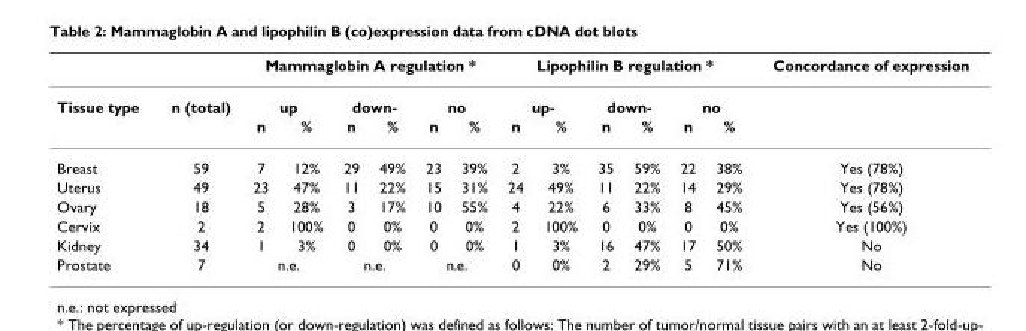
<table><thead><tr><td rowspan="3">Tissue type</td><td rowspan="3">n (total)</td><td colspan="6">Mammaglobin A regulation *</td><td colspan="6">Lipophilin B regulation *</td><td rowspan="3">Concordance of expression</td></tr><tr><td colspan="2">up</td><td colspan="2">down-</td><td colspan="2">no</td><td colspan="2">up-</td><td colspan="2">down-</td><td colspan="2">no</td></tr><tr><td>n</td><td>%</td><td>n</td><td>%</td><td>n</td><td>%</td><td>n</td><td>%</td><td>n</td><td>%</td><td>n</td><td>%</td></tr></thead><tbody><tr><td>Breast</td><td>59</td><td>7</td><td>12%</td><td>29</td><td>49%</td><td>23</td><td>39%</td><td>2</td><td>3%</td><td>35</td><td>59%</td><td>22</td><td>38%</td><td>Yes (78%)</td></tr><tr><td>Uterus</td><td>49</td><td>23</td><td>47%</td><td>11</td><td>22%</td><td>15</td><td>31%</td><td>24</td><td>49%</td><td>11</td><td>22%</td><td>14</td><td>29%</td><td>Yes (78%)</td></tr><tr><td>Ovary</td><td>18</td><td>5</td><td>28%</td><td>3</td><td>17%</td><td>10</td><td>55%</td><td>4</td><td>22%</td><td>6</td><td>33%</td><td>8</td><td>45%</td><td>Yes (56%)</td></tr><tr><td>Cervix</td><td>2</td><td>2</td><td>100%</td><td>0</td><td>0%</td><td>0</td><td>0%</td><td>2</td><td>100%</td><td>0</td><td>0%</td><td>0</td><td>0%</td><td>Yes (100%)</td></tr><tr><td>Kidney</td><td>34</td><td>1</td><td>3%</td><td>0</td><td>0%</td><td>0</td><td>0%</td><td>1</td><td>3%</td><td>16</td><td>47%</td><td>17</td><td>50%</td><td>No</td></tr><tr><td>Prostate</td><td>7</td><td colspan="2">n.e.</td><td colspan="2">n.e.</td><td colspan="2">n.e.</td><td>0</td><td>0%</td><td>2</td><td>29%</td><td>5</td><td>71%</td><td>No</td></tr></tbody></table>